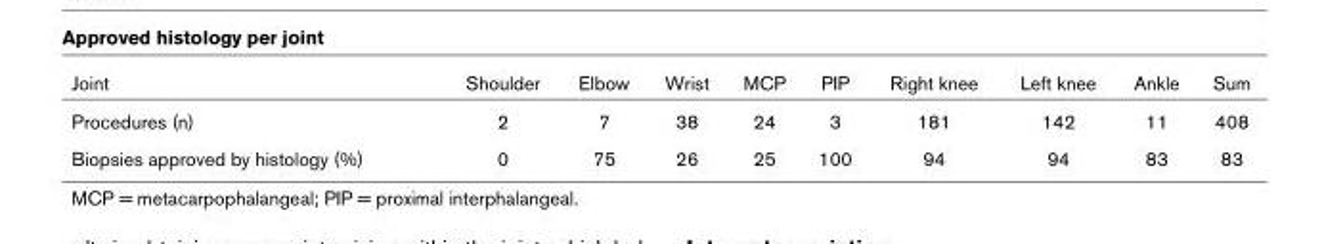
<table><thead><tr><td>Joint</td><td>Shoulder</td><td>Elbow</td><td>Wrist</td><td>MCP</td><td>PIP</td><td>Right knee</td><td>Left knee</td><td>Ankle</td><td>Sum</td></tr></thead><tbody><tr><td>Procedures (n)</td><td>2</td><td>7</td><td>38</td><td>24</td><td>3</td><td>181</td><td>142</td><td>11</td><td>408</td></tr><tr><td>Biopsies approved by histology (%)</td><td>0</td><td>75</td><td>26</td><td>25</td><td>100</td><td>94</td><td>94</td><td>83</td><td>83</td></tr></tbody></table>